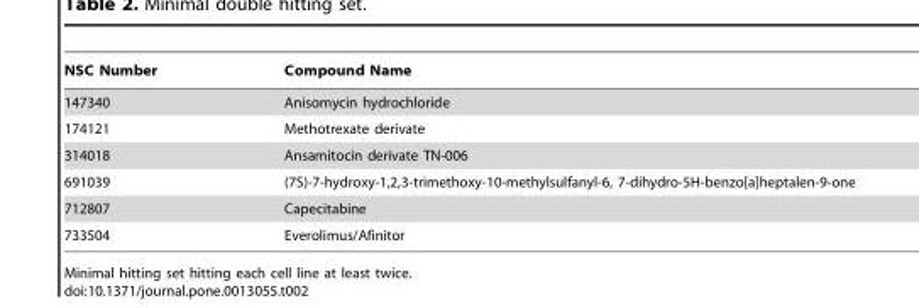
<table><thead><tr><td>NSC Number</td><td>Compound Name</td></tr></thead><tbody><tr><td>147340</td><td>Anisomycin hydrochloride</td></tr><tr><td>174121</td><td>Methotrexate derivate</td></tr><tr><td>314018</td><td>Ansamitocin derivate TN-006</td></tr><tr><td>691039</td><td>(7S)-7-hydroxy-1,2,3-trimethoxy-10-methylsulfanyl-6, 7-dihydro-5H-benzo[a]heptalen-9-one</td></tr><tr><td>712807</td><td>Capecitabine</td></tr><tr><td>733504</td><td>Everolimus/Afinitor</td></tr></tbody></table>